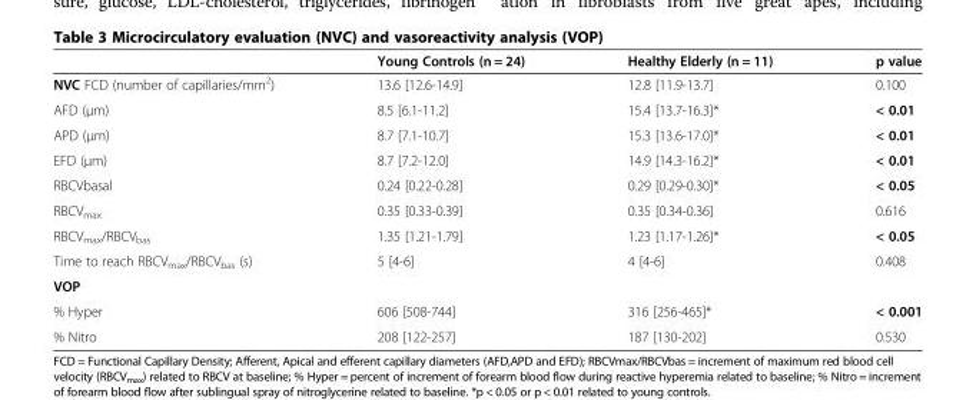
<table><thead><tr><td></td><td>Young Controls (n = 24)</td><td>Healthy Elderly (n = 11)</td><td>p value</td></tr></thead><tbody><tr><td>NVC FCD (number of capillaries/mm<sup>2</sup>)</td><td>13.6 [12.6-14.9]</td><td>12.8 [11.9-13.7]</td><td>0.100</td></tr><tr><td>AFD (μm)</td><td>8.5 [6.1-11.2]</td><td>15.4 [13.7-16.3]*</td><td>&lt; 0.01</td></tr><tr><td>APD (μm)</td><td>8.7 [7.1-10.7]</td><td>15.3 [13.6-17.0]*</td><td>&lt; 0.01</td></tr><tr><td>EFD (μm)</td><td>8.7 [7.2-12.0]</td><td>14.9 [14.3-16.2]*</td><td>&lt; 0.01</td></tr><tr><td>RBCVbasal</td><td>0.24 [0.22-0.28]</td><td>0.29 [0.29-0.30]*</td><td>&lt; 0.05</td></tr><tr><td>RBCV<sub>max</sub></td><td>0.35 [0.33-0.39]</td><td>0.35 [0.34-0.36]</td><td>0.616</td></tr><tr><td>RBCV<sub>max</sub>/RBCV<sub>bas</sub></td><td>1.35 [1.21-1.79]</td><td>1.23 [1.17-1.26]*</td><td>&lt; 0.05</td></tr><tr><td>Time to reach RBCV<sub>max</sub>/RBCV<sub>bas</sub> (s)</td><td>5 [4-6]</td><td>4 [4-6]</td><td>0.408</td></tr><tr><td colspan="4">VOP</td></tr><tr><td>% Hyper</td><td>606 [508-744]</td><td>316 [256-465]*</td><td>&lt; 0.001</td></tr><tr><td>% Nitro</td><td>208 [122-257]</td><td>187 [130-202]</td><td>0.530</td></tr></tbody></table>